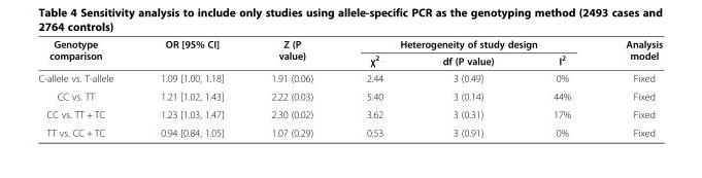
<table><thead><tr><td rowspan="2">Genotype comparison</td><td rowspan="2">OR [95% CI]</td><td rowspan="2">Z (P value)</td><td colspan="3">Heterogeneity of study design</td><td rowspan="2">Analysis model</td></tr><tr><td>χ<sup>2</sup></td><td>df (P value)</td><td>I<sup>2</sup></td></tr></thead><tbody><tr><td>C-allele vs. T-allele</td><td>1.09 [1.00, 1.18]</td><td>1.91 (0.06)</td><td>2.44</td><td>3 (0.49)</td><td>0%</td><td>Fixed</td></tr><tr><td>CC vs. TT</td><td>1.21 [1.02, 1.43]</td><td>2.22 (0.03)</td><td>5.40</td><td>3 (0.14)</td><td>44%</td><td>Fixed</td></tr><tr><td>CC vs. TT + TC</td><td>1.23 [1.03, 1.47]</td><td>2.30 (0.02)</td><td>3.62</td><td>3 (0.31)</td><td>17%</td><td>Fixed</td></tr><tr><td>TT vs. CC + TC</td><td>0.94 [0.84, 1.05]</td><td>1.07 (0.29)</td><td>0.53</td><td>3 (0.91)</td><td>0%</td><td>Fixed</td></tr></tbody></table>